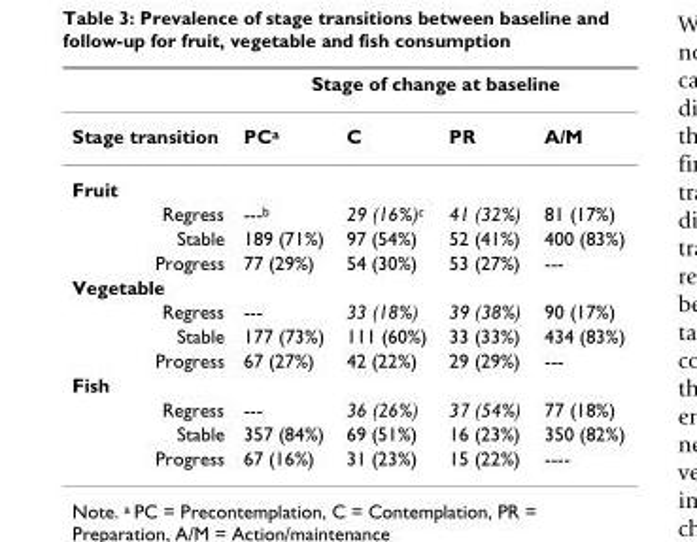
<table><thead><tr><td rowspan="2">Stage transition</td><td colspan="4">Stage of change at baseline</td></tr><tr><td>PC<sup>a</sup></td><td>C</td><td>PR</td><td>A/M</td></tr></thead><tbody><tr><td colspan="5">Fruit</td></tr><tr><td>Regress</td><td>---<sup>b</sup></td><td>29 (16%)<sup>c</sup></td><td>41 (32%)</td><td>81 (17%)</td></tr><tr><td>Stable</td><td>189 (71%)</td><td>97 (54%)</td><td>52 (41%)</td><td>400 (83%)</td></tr><tr><td>Progress</td><td>77 (29%)</td><td>54 (30%)</td><td>53 (27%)</td><td>---</td></tr><tr><td colspan="5">Vegetable</td></tr><tr><td>Regress</td><td>---</td><td>33 (18%)</td><td>39 (38%)</td><td>90 (17%)</td></tr><tr><td>Stable</td><td>177 (73%)</td><td>111 (60%)</td><td>33 (33%)</td><td>434 (83%)</td></tr><tr><td>Progress</td><td>67 (27%)</td><td>42 (22%)</td><td>29 (29%)</td><td>---</td></tr><tr><td colspan="5">Fish</td></tr><tr><td>Regress</td><td>---</td><td>36 (26%)</td><td>37 (54%)</td><td>77 (18%)</td></tr><tr><td>Stable</td><td>357 (84%)</td><td>69 (51%)</td><td>16 (23%)</td><td>350 (82%)</td></tr><tr><td>Progress</td><td>67 (16%)</td><td>31 (23%)</td><td>15 (22%)</td><td>----</td></tr></tbody></table>